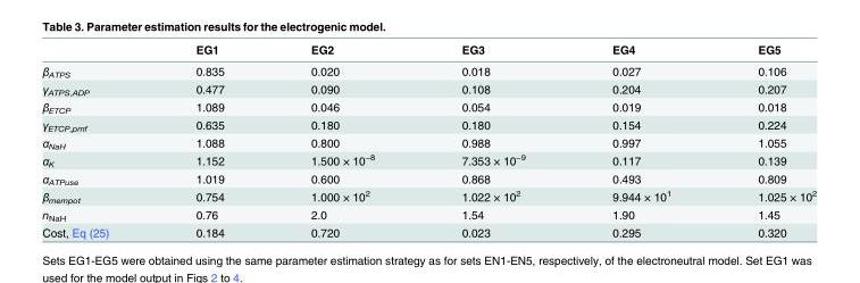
<table><thead><tr><td></td><td>EG1</td><td>EG2</td><td>EG3</td><td>EG4</td><td>EG5</td></tr></thead><tbody><tr><td>β<sub>ATPS</sub></td><td>0.835</td><td>0.020</td><td>0.018</td><td>0.027</td><td>0.106</td></tr><tr><td>γ<sub>ATPS,ADP</sub></td><td>0.477</td><td>0.090</td><td>0.108</td><td>0.204</td><td>0.207</td></tr><tr><td>β<sub>ETCP</sub></td><td>1.089</td><td>0.046</td><td>0.054</td><td>0.019</td><td>0.018</td></tr><tr><td>γ<sub>ETCP,pmf</sub></td><td>0.635</td><td>0.180</td><td>0.180</td><td>0.154</td><td>0.224</td></tr><tr><td>α<sub>NaH</sub></td><td>1.088</td><td>0.800</td><td>0.988</td><td>0.997</td><td>1.055</td></tr><tr><td>α<sub>K</sub></td><td>1.152</td><td>1.500 × 10<sup>−8</sup></td><td>7.353 × 10<sup>−9</sup></td><td>0.117</td><td>0.139</td></tr><tr><td>α<sub>ATPuse</sub></td><td>1.019</td><td>0.600</td><td>0.868</td><td>0.493</td><td>0.809</td></tr><tr><td>β<sub>mempot</sub></td><td>0.754</td><td>1.000 × 10<sup>2</sup></td><td>1.022 × 10<sup>2</sup></td><td>9.944 × 10<sup>1</sup></td><td>1.025 × 10<sup>2</sup></td></tr><tr><td>n<sub>NaH</sub></td><td>0.76</td><td>2.0</td><td>1.54</td><td>1.90</td><td>1.45</td></tr><tr><td>Cost, Eq (25)</td><td>0.184</td><td>0.720</td><td>0.023</td><td>0.295</td><td>0.320</td></tr></tbody></table>